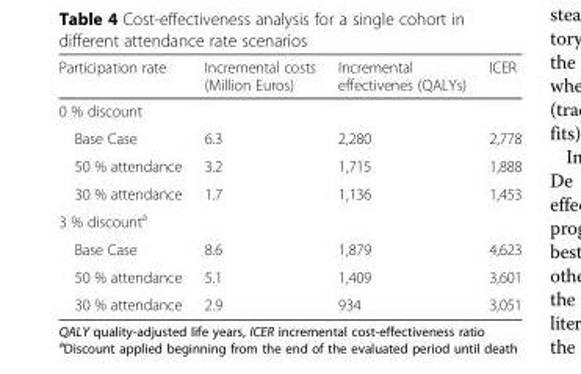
<table><thead><tr><td>Participation rate</td><td>Incremental costs (Million Euros)</td><td>Incremental effectivenes (QALYs)</td><td>ICER</td></tr></thead><tbody><tr><td colspan="4">0 % discount</td></tr><tr><td>Base Case</td><td>6.3</td><td>2,280</td><td>2,778</td></tr><tr><td>50 % attendance</td><td>3.2</td><td>1,715</td><td>1,888</td></tr><tr><td>30 % attendance</td><td>1.7</td><td>1,136</td><td>1,453</td></tr><tr><td colspan="4">3 % discount<sup>a</sup></td></tr><tr><td>Base Case</td><td>8.6</td><td>1,879</td><td>4,623</td></tr><tr><td>50 % attendance</td><td>5.1</td><td>1,409</td><td>3,601</td></tr><tr><td>30 % attendance</td><td>2.9</td><td>934</td><td>3,051</td></tr></tbody></table>